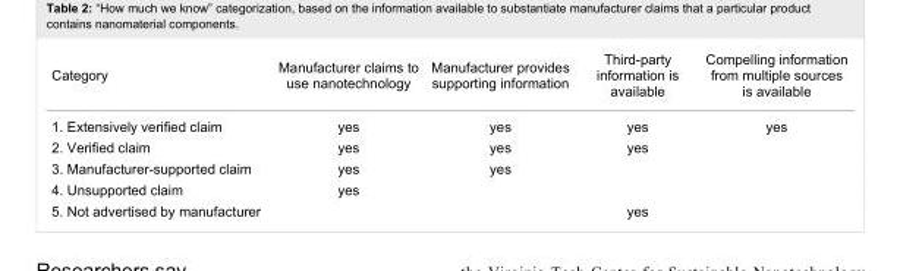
<table><tbody><tr><td>Category</td><td>Manufacturer claims to use nanotechnology</td><td>Manufacturer provides supporting information</td><td>Third-party information is available</td><td>Compelling information from multiple sources is available</td></tr><tr><td>1. Extensively verified claim</td><td>yes</td><td>yes</td><td>yes</td><td>yes</td></tr><tr><td>2. Verified claim</td><td>yes</td><td>yes</td><td>yes</td><td></td></tr><tr><td>3. Manufacturer-supported claim</td><td>yes</td><td>yes</td><td></td><td></td></tr><tr><td>4. Unsupported claim</td><td>yes</td><td></td><td></td><td></td></tr><tr><td>5. Not advertised by manufacturer</td><td></td><td></td><td>yes</td><td></td></tr></tbody></table>